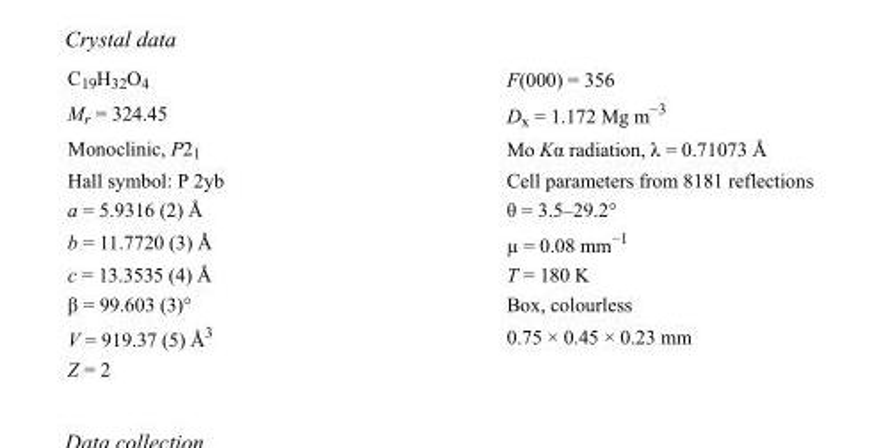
<table><tbody><tr><td>C<sub>19</sub>H<sub>32</sub>O<sub>4</sub></td><td>F(000) = 356</td></tr><tr><td>M<sub>r</sub> = 324.45</td><td>D<sub>x</sub> = 1.172 Mg m<sup>−3</sup></td></tr><tr><td>Monoclinic, P2<sub>1</sub></td><td>Mo Kα radiation, λ = 0.71073 Å</td></tr><tr><td>Hall symbol: P 2yb</td><td>Cell parameters from 8181 reflections</td></tr><tr><td>a = 5.9316 (2) Å</td><td>θ = 3.5–29.2°</td></tr><tr><td>b = 11.7720 (3) Å</td><td>µ = 0.08 mm<sup>−1</sup></td></tr><tr><td>c = 13.3535 (4) Å</td><td>T = 180 K</td></tr><tr><td>β = 99.603 (3)°</td><td>Box, colourless</td></tr><tr><td>V = 919.37 (5) Å<sup>3</sup></td><td>0.75 × 0.45 × 0.23 mm</td></tr><tr><td>Z = 2</td><td></td></tr></tbody></table>